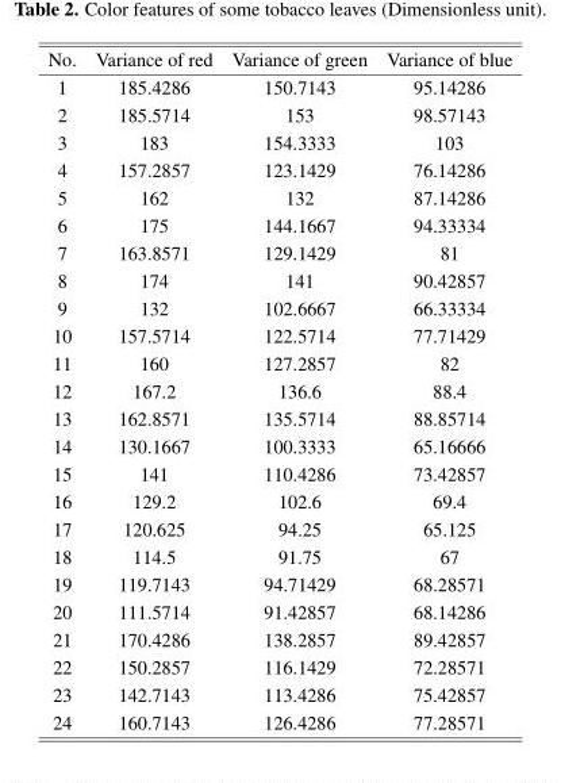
<table><thead><tr><td>No.</td><td>Variance of red</td><td>Variance of green</td><td>Variance of blue</td></tr></thead><tbody><tr><td>1</td><td>185.4286</td><td>150.7143</td><td>95.14286</td></tr><tr><td>2</td><td>185.5714</td><td>153</td><td>98.57143</td></tr><tr><td>3</td><td>183</td><td>154.3333</td><td>103</td></tr><tr><td>4</td><td>157.2857</td><td>123.1429</td><td>76.14286</td></tr><tr><td>5</td><td>162</td><td>132</td><td>87.14286</td></tr><tr><td>6</td><td>175</td><td>144.1667</td><td>94.33334</td></tr><tr><td>7</td><td>163.8571</td><td>129.1429</td><td>81</td></tr><tr><td>8</td><td>174</td><td>141</td><td>90.42857</td></tr><tr><td>9</td><td>132</td><td>102.6667</td><td>66.33334</td></tr><tr><td>10</td><td>157.5714</td><td>122.5714</td><td>77.71429</td></tr><tr><td>11</td><td>160</td><td>127.2857</td><td>82</td></tr><tr><td>12</td><td>167.2</td><td>136.6</td><td>88.4</td></tr><tr><td>13</td><td>162.8571</td><td>135.5714</td><td>88.85714</td></tr><tr><td>14</td><td>130.1667</td><td>100.3333</td><td>65.16666</td></tr><tr><td>15</td><td>141</td><td>110.4286</td><td>73.42857</td></tr><tr><td>16</td><td>129.2</td><td>102.6</td><td>69.4</td></tr><tr><td>17</td><td>120.625</td><td>94.25</td><td>65.125</td></tr><tr><td>18</td><td>114.5</td><td>91.75</td><td>67</td></tr><tr><td>19</td><td>119.7143</td><td>94.71429</td><td>68.28571</td></tr><tr><td>20</td><td>111.5714</td><td>91.42857</td><td>68.14286</td></tr><tr><td>21</td><td>170.4286</td><td>138.2857</td><td>89.42857</td></tr><tr><td>22</td><td>150.2857</td><td>116.1429</td><td>72.28571</td></tr><tr><td>23</td><td>142.7143</td><td>113.4286</td><td>75.42857</td></tr><tr><td>24</td><td>160.7143</td><td>126.4286</td><td>77.28571</td></tr></tbody></table>